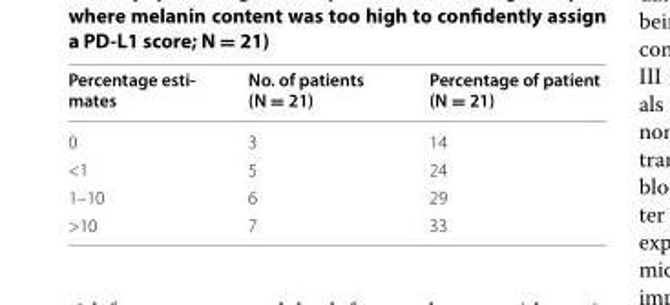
<table><thead><tr><td>Percentage esti- mates</td><td>No. of patients (N = 21)</td><td>Percentage of patient (N = 21)</td></tr></thead><tbody><tr><td>0</td><td>3</td><td>14</td></tr><tr><td>&lt;1</td><td>5</td><td>24</td></tr><tr><td>1–10</td><td>6</td><td>29</td></tr><tr><td>&gt;10</td><td>7</td><td>33</td></tr></tbody></table>